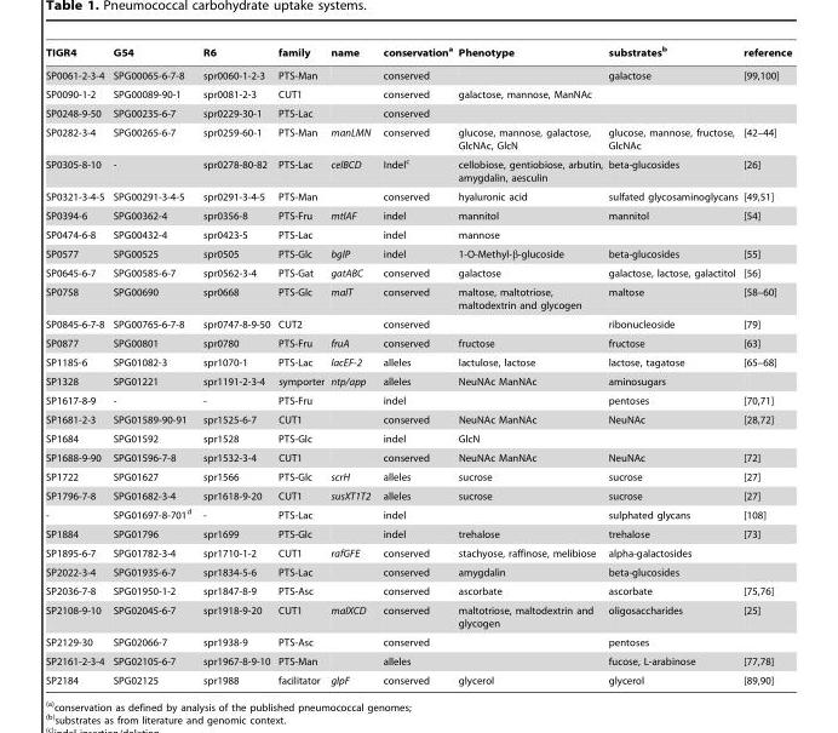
<table><thead><tr><td>TIGR4</td><td>G54</td><td>R6</td><td>family</td><td>name</td><td>conservation<sup>a</sup></td><td>Phenotype</td><td>substrates<sup>b</sup></td><td>reference</td></tr></thead><tbody><tr><td>SP0061-2-3-4</td><td>SPG00065-6-7-8</td><td>spr0060-1-2-3</td><td>PTS-Man</td><td></td><td>conserved</td><td></td><td>galactose</td><td>[99,100]</td></tr><tr><td>SP0090-1-2</td><td>SPG00089-90-1</td><td>spr0081-2-3</td><td>CUT1</td><td></td><td>conserved</td><td>galactose, mannose, ManNAc</td><td></td><td></td></tr><tr><td>SP0248-9-50</td><td>SPG00235-6-7</td><td>spr0229-30-1</td><td>PTS-Lac</td><td></td><td>conserved</td><td></td><td></td><td></td></tr><tr><td>SP0282-3-4</td><td>SPG00265-6-7</td><td>spr0259-60-1</td><td>PTS-Man</td><td>manLMN</td><td>conserved</td><td>glucose, mannose, galactose, GlcNAc, GlcN</td><td>glucose, mannose, fructose, GlcNAc</td><td>[42–44]</td></tr><tr><td>SP0305-8-10</td><td>-</td><td>spr0278-80-82</td><td>PTS-Lac</td><td>celBCD</td><td>Indel<sup>c</sup></td><td>cellobiose, gentiobiose, arbutin, amygdalin, aesculin</td><td>beta-glucosides</td><td>[26]</td></tr><tr><td>SP0321-3-4-5</td><td>SPG00291-3-4-5</td><td>spr0291-3-4-5</td><td>PTS-Man</td><td></td><td>conserved</td><td>hyaluronic acid</td><td>sulfated glycosaminoglycans</td><td>[49,51]</td></tr><tr><td>SP0394-6</td><td>SPG00362-4</td><td>spr0356-8</td><td>PTS-Fru</td><td>mtlAF</td><td>indel</td><td>mannitol</td><td>mannitol</td><td>[54]</td></tr><tr><td>SP0474-6-8</td><td>SPG00432-4</td><td>spr0423-5</td><td>PTS-Lac</td><td></td><td>indel</td><td>mannose</td><td></td><td></td></tr><tr><td>SP0577</td><td>SPG00525</td><td>spr0505</td><td>PTS-Glc</td><td>bglP</td><td>indel</td><td>1-O-Methyl-β-glucoside</td><td>beta-glucosides</td><td>[55]</td></tr><tr><td>SP0645-6-7</td><td>SPG00585-6-7</td><td>spr0562-3-4</td><td>PTS-Gat</td><td>gatABC</td><td>conserved</td><td>galactose</td><td>galactose, lactose, galactitol</td><td>[56]</td></tr><tr><td>SP0758</td><td>SPG00690</td><td>spr0668</td><td>PTS-Glc</td><td>malT</td><td>conserved</td><td>maltose, maltotriose, maltodextrin and glycogen</td><td>maltose</td><td>[58–60]</td></tr><tr><td>SP0845-6-7-8</td><td>SPG00765-6-7-8</td><td>spr0747-8-9-50</td><td>CUT2</td><td></td><td>conserved</td><td></td><td>ribonucleoside</td><td>[79]</td></tr><tr><td>SP0877</td><td>SPG00801</td><td>spr0780</td><td>PTS-Fru</td><td>fruA</td><td>conserved</td><td>fructose</td><td>fructose</td><td>[63]</td></tr><tr><td>SP1185-6</td><td>SPG01082-3</td><td>spr1070-1</td><td>PTS-Lac</td><td>lacEF-2</td><td>alleles</td><td>lactulose, lactose</td><td>lactose, tagatose</td><td>[65–68]</td></tr><tr><td>SP1328</td><td>SPG01221</td><td>spr1191-2-3-4</td><td>symporter</td><td>ntp/app</td><td>alleles</td><td>NeuNAc ManNAc</td><td>aminosugars</td><td></td></tr><tr><td>SP1617-8-9</td><td>-</td><td>-</td><td>PTS-Fru</td><td></td><td>indel</td><td></td><td>pentoses</td><td>[70,71]</td></tr><tr><td>SP1681-2-3</td><td>SPG01589-90-91</td><td>spr1525-6-7</td><td>CUT1</td><td></td><td>conserved</td><td>NeuNAc ManNAc</td><td>NeuNAc</td><td>[28,72]</td></tr><tr><td>SP1684</td><td>SPG01592</td><td>spr1528</td><td>PTS-Glc</td><td></td><td>indel</td><td>GlcN</td><td></td><td></td></tr><tr><td>SP1688-9-90</td><td>SPG01596-7-8</td><td>spr1532-3-4</td><td>CUT1</td><td></td><td>conserved</td><td>NeuNAc ManNAc</td><td>NeuNAc</td><td>[72]</td></tr><tr><td>SP1722</td><td>SPG01627</td><td>spr1566</td><td>PTS-Glc</td><td>scrH</td><td>alleles</td><td>sucrose</td><td>sucrose</td><td>[27]</td></tr><tr><td>SP1796-7-8</td><td>SPG01682-3-4</td><td>spr1618-9-20</td><td>CUT1</td><td>susXT1T2</td><td>alleles</td><td>sucrose</td><td>sucrose</td><td>[27]</td></tr><tr><td>-</td><td>SPG01697-8-701<sup>d</sup></td><td>-</td><td>PTS-Lac</td><td></td><td>indel</td><td></td><td>sulphated glycans</td><td>[108]</td></tr><tr><td>SP1884</td><td>SPG01796</td><td>spr1699</td><td>PTS-Glc</td><td></td><td>indel</td><td>trehalose</td><td>trehalose</td><td>[73]</td></tr><tr><td>SP1895-6-7</td><td>SPG01782-3-4</td><td>spr1710-1-2</td><td>CUT1</td><td>rafGFE</td><td>conserved</td><td>stachyose, raffinose, melibiose</td><td>alpha-galactosides</td><td></td></tr><tr><td>SP2022-3-4</td><td>SPG01935-6-7</td><td>spr1834-5-6</td><td>PTS-Lac</td><td></td><td>conserved</td><td>amygdalin</td><td>beta-glucosides</td><td></td></tr><tr><td>SP2036-7-8</td><td>SPG01950-1-2</td><td>spr1847-8-9</td><td>PTS-Asc</td><td></td><td>conserved</td><td>ascorbate</td><td>ascorbate</td><td>[75,76]</td></tr><tr><td>SP2108-9-10</td><td>SPG02045-6-7</td><td>spr1918-9-20</td><td>CUT1</td><td>malXCD</td><td>conserved</td><td>maltotriose, maltodextrin and glycogen</td><td>oligosaccharides</td><td>[25]</td></tr><tr><td>SP2129-30</td><td>SPG02066-7</td><td>spr1938-9</td><td>PTS-Asc</td><td></td><td>conserved</td><td></td><td>pentoses</td><td></td></tr><tr><td>SP2161-2-3-4</td><td>SPG02105-6-7</td><td>spr1967-8-9-10</td><td>PTS-Man</td><td></td><td>alleles</td><td></td><td>fucose, L-arabinose</td><td>[77,78]</td></tr><tr><td>SP2184</td><td>SPG02125</td><td>spr1988</td><td>facilitator</td><td>glpF</td><td>conserved</td><td>glycerol</td><td>glycerol</td><td>[89,90]</td></tr></tbody></table>